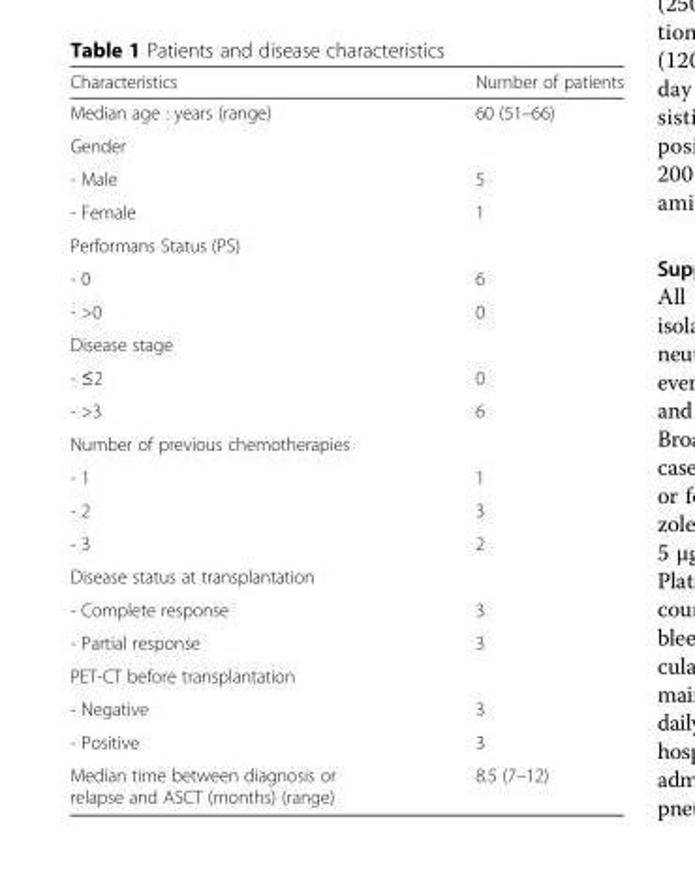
<table><thead><tr><td>Characteristics</td><td>Number of patients</td></tr></thead><tbody><tr><td>Median age : years (range)</td><td>60 (51–66)</td></tr><tr><td colspan="2">Gender</td></tr><tr><td>- Male</td><td>5</td></tr><tr><td>- Female</td><td>1</td></tr><tr><td colspan="2">Performans Status (PS)</td></tr><tr><td>- 0</td><td>6</td></tr><tr><td>- &gt;0</td><td>0</td></tr><tr><td colspan="2">Disease stage</td></tr><tr><td>- ≤2</td><td>0</td></tr><tr><td>- &gt;3</td><td>6</td></tr><tr><td colspan="2">Number of previous chemotherapies</td></tr><tr><td>- 1</td><td>1</td></tr><tr><td>- 2</td><td>3</td></tr><tr><td>- 3</td><td>2</td></tr><tr><td colspan="2">Disease status at transplantation</td></tr><tr><td>- Complete response</td><td>3</td></tr><tr><td>- Partial response</td><td>3</td></tr><tr><td colspan="2">PET-CT before transplantation</td></tr><tr><td>- Negative</td><td>3</td></tr><tr><td>- Positive</td><td>3</td></tr><tr><td>Median time between diagnosis or relapse and ASCT (months) (range)</td><td>8.5 (7–12)</td></tr></tbody></table>